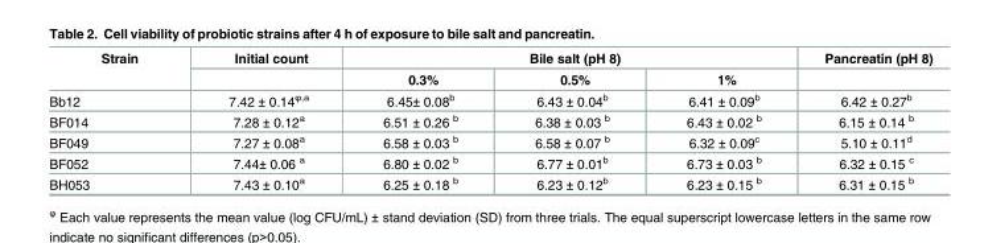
<table><thead><tr><td rowspan="2">Strain</td><td rowspan="2">Initial count</td><td colspan="3">Bile salt (pH 8)</td><td rowspan="2">Pancreatin (pH 8)</td></tr><tr><td>0.3%</td><td>0.5%</td><td>1%</td></tr></thead><tbody><tr><td>Bb12</td><td>7.42 ± 0.14<sup>φ,a</sup></td><td>6.45± 0.08<sup>b</sup></td><td>6.43 ± 0.04<sup>b</sup></td><td>6.41 ± 0.09<sup>b</sup></td><td>6.42 ± 0.27<sup>b</sup></td></tr><tr><td>BF014</td><td>7.28 ± 0.12<sup>a</sup></td><td>6.51 ± 0.26 <sup>b</sup></td><td>6.38 ± 0.03 <sup>b</sup></td><td>6.43 ± 0.02 <sup>b</sup></td><td>6.15 ± 0.14 <sup>b</sup></td></tr><tr><td>BF049</td><td>7.27 ± 0.08<sup>a</sup></td><td>6.58 ± 0.03 <sup>b</sup></td><td>6.58 ± 0.07 <sup>b</sup></td><td>6.32 ± 0.09<sup>c</sup></td><td>5.10 ± 0.11<sup>d</sup></td></tr><tr><td>BF052</td><td>7.44± 0.06 <sup>a</sup></td><td>6.80 ± 0.02 <sup>b</sup></td><td>6.77 ± 0.01<sup>b</sup></td><td>6.73 ± 0.03 <sup>b</sup></td><td>6.32 ± 0.15 <sup>c</sup></td></tr><tr><td>BH053</td><td>7.43 ± 0.10<sup>a</sup></td><td>6.25 ± 0.18 <sup>b</sup></td><td>6.23 ± 0.12<sup>b</sup></td><td>6.23 ± 0.15 <sup>b</sup></td><td>6.31 ± 0.15 <sup>b</sup></td></tr></tbody></table>